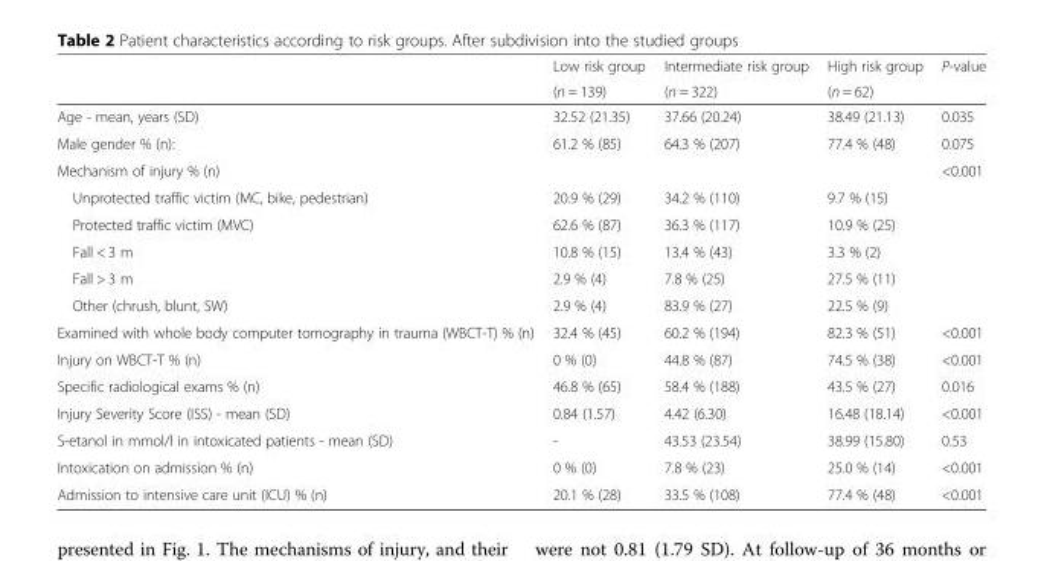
<table><thead><tr><td rowspan="2"></td><td rowspan="2">Low risk group (n = 139)</td><td rowspan="2">Intermediate risk group (n = 322)</td><td rowspan="2">High risk group (n = 62)</td><td rowspan="2">P-value</td></tr><tr></tr></thead><tbody><tr><td>Age - mean, years (SD)</td><td>32.52 (21.35)</td><td>37.66 (20.24)</td><td>38.49 (21.13)</td><td>0.035</td></tr><tr><td>Male gender % (n):</td><td>61.2 % (85)</td><td>64.3 % (207)</td><td>77.4 % (48)</td><td>0.075</td></tr><tr><td>Mechanism of injury % (n)</td><td></td><td></td><td></td><td>&lt;0.001</td></tr><tr><td>Unprotected traffic victim (MC, bike, pedestrian)</td><td>20.9 % (29)</td><td>34.2 % (110)</td><td>9.7 % (15)</td><td></td></tr><tr><td>Protected traffic victim (MVC)</td><td>62.6 % (87)</td><td>36.3 % (117)</td><td>10.9 % (25)</td><td></td></tr><tr><td>Fall &lt; 3 m</td><td>10.8 % (15)</td><td>13.4 % (43)</td><td>3.3 % (2)</td><td></td></tr><tr><td>Fall &gt; 3 m</td><td>2.9 % (4)</td><td>7.8 % (25)</td><td>27.5 % (11)</td><td></td></tr><tr><td>Other (chrush, blunt, SW)</td><td>2.9 % (4)</td><td>83.9 % (27)</td><td>22.5 % (9)</td><td></td></tr><tr><td>Examined with whole body computer tomography in trauma (WBCT-T) % (n)</td><td>32.4 % (45)</td><td>60.2 % (194)</td><td>82.3 % (51)</td><td>&lt;0.001</td></tr><tr><td>Injury on WBCT-T % (n)</td><td>0 % (0)</td><td>44.8 % (87)</td><td>74.5 % (38)</td><td>&lt;0.001</td></tr><tr><td>Specific radiological exams % (n)</td><td>46.8 % (65)</td><td>58.4 % (188)</td><td>43.5 % (27)</td><td>0.016</td></tr><tr><td>Injury Severity Score (ISS) - mean (SD)</td><td>0.84 (1.57)</td><td>4.42 (6.30)</td><td>16.48 (18.14)</td><td>&lt;0.001</td></tr><tr><td>S-etanol in mmol/l in intoxicated patients - mean (SD)</td><td>-</td><td>43.53 (23.54)</td><td>38.99 (15.80)</td><td>0.53</td></tr><tr><td>Intoxication on admission % (n)</td><td>0 % (0)</td><td>7.8 % (23)</td><td>25.0 % (14)</td><td>&lt;0.001</td></tr><tr><td>Admission to intensive care unit (ICU) % (n)</td><td>20.1 % (28)</td><td>33.5 % (108)</td><td>77.4 % (48)</td><td>&lt;0.001</td></tr></tbody></table>